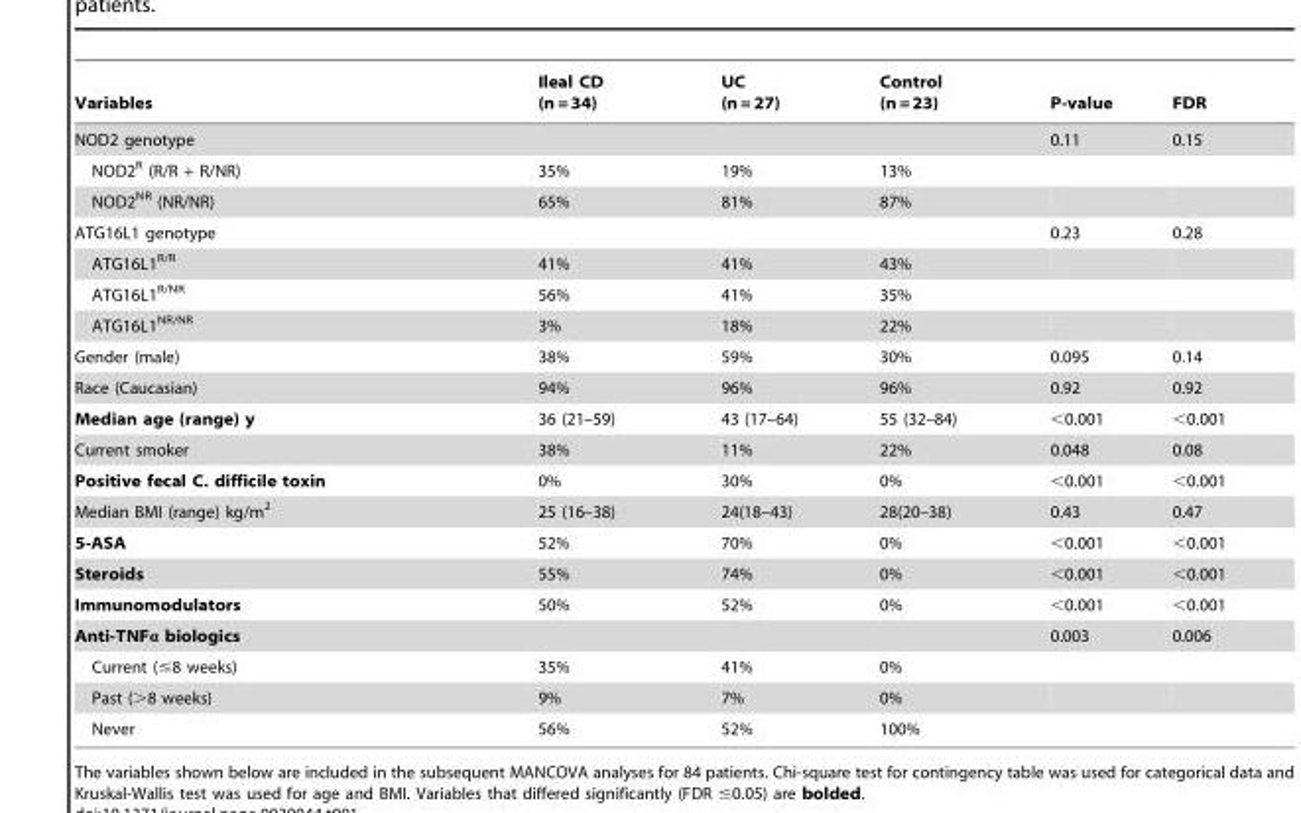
<table><thead><tr><td>Variables</td><td>Ileal CD (n = 34)</td><td>UC (n = 27)</td><td>Control (n = 23)</td><td>P-value</td><td>FDR</td></tr></thead><tbody><tr><td colspan="4">NOD2 genotype</td><td>0.11</td><td>0.15</td></tr><tr><td>NOD2<sup>R</sup> (R/R + R/NR)</td><td>35%</td><td>19%</td><td>13%</td><td></td><td></td></tr><tr><td>NOD2<sup>NR</sup> (NR/NR)</td><td>65%</td><td>81%</td><td>87%</td><td></td><td></td></tr><tr><td>ATG16L1 genotype</td><td></td><td></td><td></td><td>0.23</td><td>0.28</td></tr><tr><td>ATG16L1<sup>R/R</sup></td><td>41%</td><td>41%</td><td>43%</td><td></td><td></td></tr><tr><td>ATG16L1<sup>R/NR</sup></td><td>56%</td><td>41%</td><td>35%</td><td></td><td></td></tr><tr><td>ATG16L1<sup>NR/NR</sup></td><td>3%</td><td>18%</td><td>22%</td><td></td><td></td></tr><tr><td>Gender (male)</td><td>38%</td><td>59%</td><td>30%</td><td>0.095</td><td>0.14</td></tr><tr><td>Race (Caucasian)</td><td>94%</td><td>96%</td><td>96%</td><td>0.92</td><td>0.92</td></tr><tr><td>Median age (range) y</td><td>36 (21–59)</td><td>43 (17–64)</td><td>55 (32–84)</td><td>&lt;0.001</td><td>&lt;0.001</td></tr><tr><td>Current smoker</td><td>38%</td><td>11%</td><td>22%</td><td>0.048</td><td>0.08</td></tr><tr><td>Positive fecal C. difficile toxin</td><td>0%</td><td>30%</td><td>0%</td><td>&lt;0.001</td><td>&lt;0.001</td></tr><tr><td>Median BMI (range) kg/m<sup>2</sup></td><td>25 (16–38)</td><td>24(18–43)</td><td>28(20–38)</td><td>0.43</td><td>0.47</td></tr><tr><td>5-ASA</td><td>52%</td><td>70%</td><td>0%</td><td>&lt;0.001</td><td>&lt;0.001</td></tr><tr><td>Steroids</td><td>55%</td><td>74%</td><td>0%</td><td>&lt;0.001</td><td>&lt;0.001</td></tr><tr><td>Immunomodulators</td><td>50%</td><td>52%</td><td>0%</td><td>&lt;0.001</td><td>&lt;0.001</td></tr><tr><td colspan="4">Anti-TNFα biologics</td><td>0.003</td><td>0.006</td></tr><tr><td>Current (≤8 weeks)</td><td>35%</td><td>41%</td><td>0%</td><td></td><td></td></tr><tr><td>Past (&gt;8 weeks)</td><td>9%</td><td>7%</td><td>0%</td><td></td><td></td></tr><tr><td>Never</td><td>56%</td><td>52%</td><td>100%</td><td></td><td></td></tr></tbody></table>